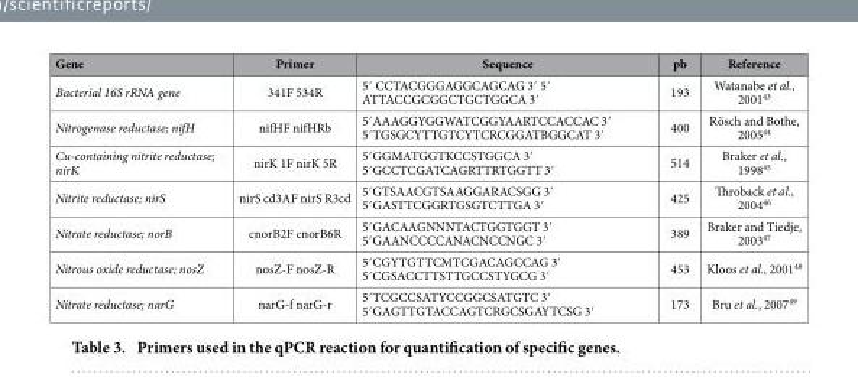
<table><thead><tr><td>Gene</td><td>Primer</td><td>Sequence</td><td>pb</td><td>Reference</td></tr></thead><tbody><tr><td>Bacterial 16S rRNA gene</td><td>341F 534R</td><td>5′ CCTACGGGAGGCAGCAG 3′ 5′ ATTACCGCGGCTGCTGGCA 3′</td><td>193</td><td>Watanabe et al., 2001<sup>43</sup></td></tr><tr><td>Nitrogenase reductase; nifH</td><td>nifHF nifHRb</td><td>5′ AAAGGYGGWATCGGYAARTCCACCAC 3′ 5′ TGSGCYTTGTCYTCRCGGATBGGCAT 3′</td><td>400</td><td>Rösch and Bothe, 2005<sup>44</sup></td></tr><tr><td>Cu-containing nitrite reductase; nirK</td><td>nirK 1F nirK 5R</td><td>5′ GGMATGGTKCCSTGGCA 3′ 5′ GCCTCGATCAGRTTRTGGTT 3′</td><td>514</td><td>Braker et al., 1998<sup>45</sup></td></tr><tr><td>Nitrite reductase; nirS</td><td>nirS cd3AF nirS R3cd</td><td>5′ GTSAACGTSAAGGARACSGG 3′ 5′ GASTTCGGRTGSGTCTTGA 3′</td><td>425</td><td>Throback et al., 2004<sup>46</sup></td></tr><tr><td>Nitrate reductase; norB</td><td>cnorB2F cnorB6R</td><td>5′ GACAAGNNNTACTGGTGGT 3′ 5′ GAANCCCCANACNCCNGC 3′</td><td>389</td><td>Braker and Tiedje, 2003<sup>47</sup></td></tr><tr><td>Nitrous oxide reductase; nosZ</td><td>nosZ-F nosZ-R</td><td>5′ CGYTGTTCMTCGACAGCCAG 3′ 5′ CGSACCTTSTTGCCSTYGCG 3′</td><td>453</td><td>Kloos et al., 2001<sup>48</sup></td></tr><tr><td>Nitrate reductase; narG</td><td>narG-f narG-r</td><td>5′ TCGCCSATYCCGGCSATGTC 3′ 5′ GAGTTGTACCAGTCRGCSGAYTCSG 3′</td><td>173</td><td>Bru et al., 2007<sup>49</sup></td></tr></tbody></table>